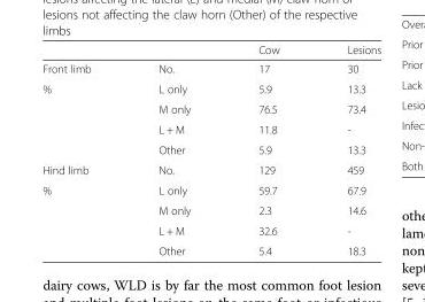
<table><thead><tr><td></td><td></td><td>Cow</td><td>Lesions</td></tr></thead><tbody><tr><td>Front limb</td><td>No.</td><td>17</td><td>30</td></tr><tr><td rowspan="4">%</td><td>L only</td><td>5.9</td><td>13.3</td></tr><tr><td>M only</td><td>76.5</td><td>73.4</td></tr><tr><td>L + M</td><td>11.8</td><td>-</td></tr><tr><td>Other</td><td>5.9</td><td>13.3</td></tr><tr><td>Hind limb</td><td>No.</td><td>129</td><td>459</td></tr><tr><td rowspan="4">%</td><td>L only</td><td>59.7</td><td>67.9</td></tr><tr><td>M only</td><td>2.3</td><td>14.6</td></tr><tr><td>L + M</td><td>32.6</td><td>-</td></tr><tr><td>Other</td><td>5.4</td><td>18.3</td></tr></tbody></table>